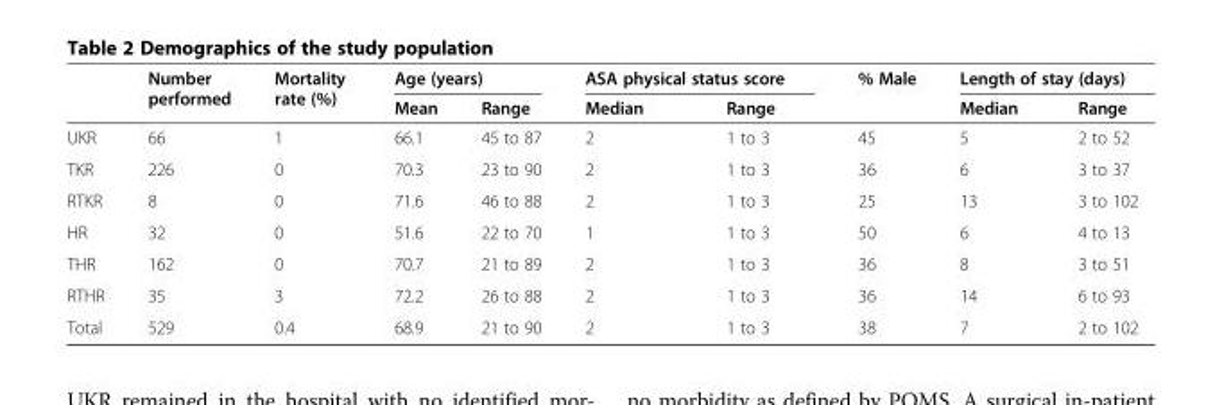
<table><thead><tr><td rowspan="2"></td><td rowspan="2">Number performed</td><td rowspan="2">Mortality rate (%)</td><td colspan="2">Age (years)</td><td colspan="2">ASA physical status score</td><td rowspan="2">% Male</td><td colspan="2">Length of stay (days)</td></tr><tr><td>Mean</td><td>Range</td><td>Median</td><td>Range</td><td>Median</td><td>Range</td></tr></thead><tbody><tr><td>UKR</td><td>66</td><td>1</td><td>66.1</td><td>45 to 87</td><td>2</td><td>1 to 3</td><td>45</td><td>5</td><td>2 to 52</td></tr><tr><td>TKR</td><td>226</td><td>0</td><td>70.3</td><td>23 to 90</td><td>2</td><td>1 to 3</td><td>36</td><td>6</td><td>3 to 37</td></tr><tr><td>RTKR</td><td>8</td><td>0</td><td>71.6</td><td>46 to 88</td><td>2</td><td>1 to 3</td><td>25</td><td>13</td><td>3 to 102</td></tr><tr><td>HR</td><td>32</td><td>0</td><td>51.6</td><td>22 to 70</td><td>1</td><td>1 to 3</td><td>50</td><td>6</td><td>4 to 13</td></tr><tr><td>THR</td><td>162</td><td>0</td><td>70.7</td><td>21 to 89</td><td>2</td><td>1 to 3</td><td>36</td><td>8</td><td>3 to 51</td></tr><tr><td>RTHR</td><td>35</td><td>3</td><td>72.2</td><td>26 to 88</td><td>2</td><td>1 to 3</td><td>36</td><td>14</td><td>6 to 93</td></tr><tr><td>Total</td><td>529</td><td>0.4</td><td>68.9</td><td>21 to 90</td><td>2</td><td>1 to 3</td><td>38</td><td>7</td><td>2 to 102</td></tr></tbody></table>